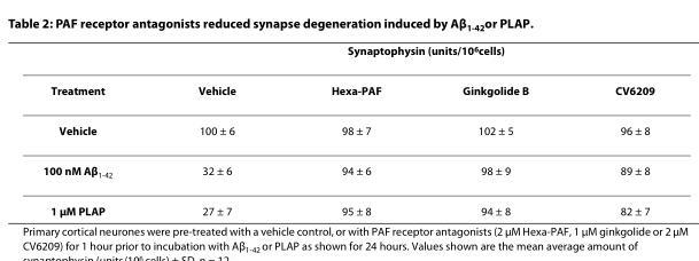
<table><thead><tr><td rowspan="2">Treatment</td><td colspan="4">Synaptophysin (units/10<sup>6</sup>cells)</td></tr><tr><td>Vehicle</td><td>Hexa-PAF</td><td>Ginkgolide B</td><td>CV6209</td></tr></thead><tbody><tr><td>Vehicle</td><td>100 ± 6</td><td>98 ± 7</td><td>102 ± 5</td><td>96 ± 8</td></tr><tr><td>100 nM Aβ<sub>1-42</sub></td><td>32 ± 6</td><td>94 ± 6</td><td>98 ± 9</td><td>89 ± 8</td></tr><tr><td>1 μM PLAP</td><td>27 ± 7</td><td>95 ± 8</td><td>94 ± 8</td><td>82 ± 7</td></tr></tbody></table>